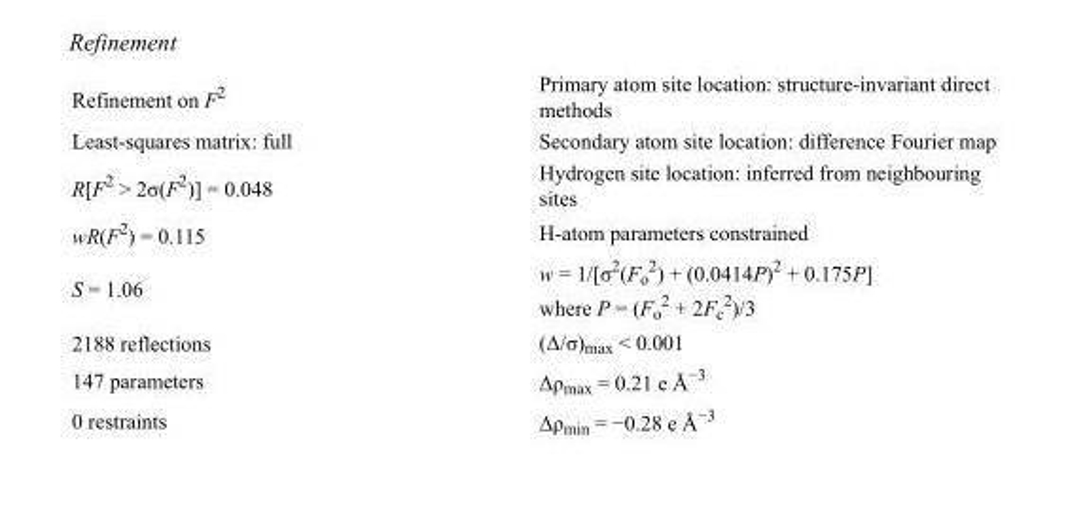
<table><tbody><tr><td>Refinement on F<sup>2</sup></td><td>Primary atom site location: structure-invariant direct methods</td></tr><tr><td>Least-squares matrix: full</td><td>Secondary atom site location: difference Fourier map</td></tr><tr><td>R[F<sup>2</sup> &gt; 2σ(F<sup>2</sup>)] = 0.048</td><td>Hydrogen site location: inferred from neighbouring sites</td></tr><tr><td>wR(F<sup>2</sup>) = 0.115</td><td>H-atom parameters constrained</td></tr><tr><td>S = 1.06</td><td>w = 1/[σ<sup>2</sup>(F<sub>o</sub> <sup>2</sup>) + (0.0414P)<sup>2</sup> + 0.175P] where P = (F<sub>o</sub> <sup>2</sup> + 2F<sub>c</sub> <sup>2</sup>)/3</td></tr><tr><td>2188 reflections</td><td>(Δ/σ)<sub>max</sub> &lt; 0.001</td></tr><tr><td>147 parameters</td><td>Δρ<sub>max</sub> = 0.21 e Å<sup>−3</sup></td></tr><tr><td>0 restraints</td><td>Δρ<sub>min</sub> = −0.28 e Å<sup>−3</sup></td></tr></tbody></table>